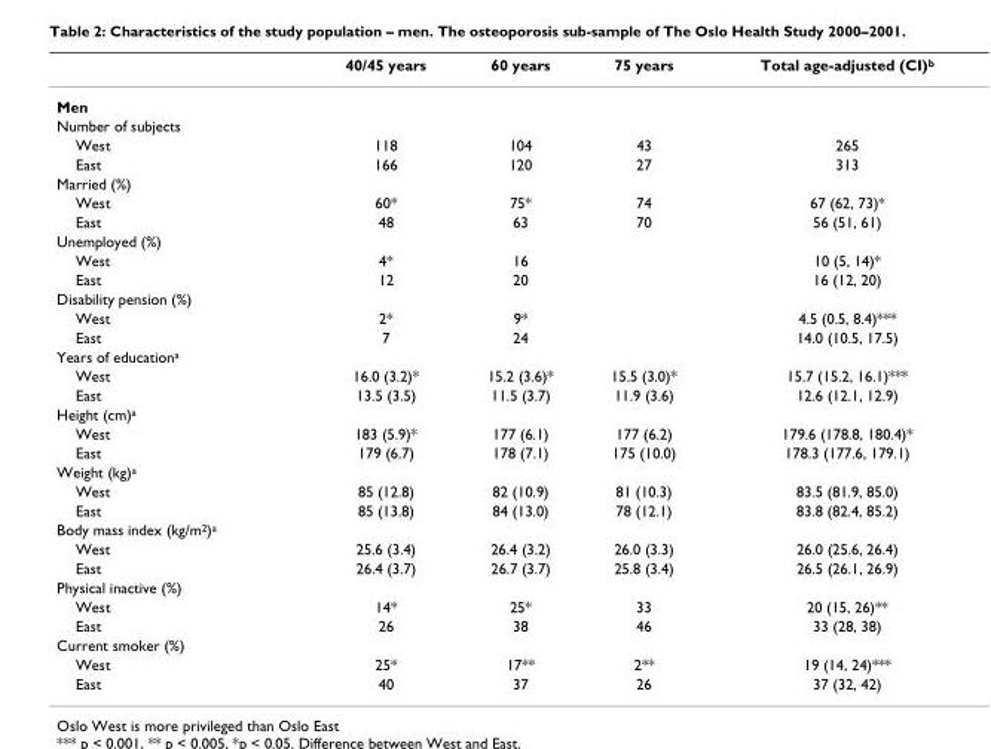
<table><thead><tr><td></td><td>40/45 years</td><td>60 years</td><td>75 years</td><td>Total age-adjusted (CI)<sup>b</sup></td></tr></thead><tbody><tr><td colspan="5">Men</td></tr><tr><td colspan="5">Number of subjects</td></tr><tr><td>West</td><td>118</td><td>104</td><td>43</td><td>265</td></tr><tr><td>East</td><td>166</td><td>120</td><td>27</td><td>313</td></tr><tr><td colspan="5">Married (%)</td></tr><tr><td>West</td><td>60*</td><td>75*</td><td>74</td><td>67 (62, 73)*</td></tr><tr><td>East</td><td>48</td><td>63</td><td>70</td><td>56 (51, 61)</td></tr><tr><td colspan="5">Unemployed (%)</td></tr><tr><td>West</td><td>4*</td><td>16</td><td></td><td>10 (5, 14)*</td></tr><tr><td>East</td><td>12</td><td>20</td><td></td><td>16 (12, 20)</td></tr><tr><td colspan="5">Disability pension (%)</td></tr><tr><td>West</td><td>2*</td><td>9*</td><td></td><td>4.5 (0.5, 8.4)***</td></tr><tr><td>East</td><td>7</td><td>24</td><td></td><td>14.0 (10.5, 17.5)</td></tr><tr><td colspan="5">Years of education<sup>a</sup></td></tr><tr><td>West</td><td>16.0 (3.2)*</td><td>15.2 (3.6)*</td><td>15.5 (3.0)*</td><td>15.7 (15.2, 16.1)***</td></tr><tr><td>East</td><td>13.5 (3.5)</td><td>11.5 (3.7)</td><td>11.9 (3.6)</td><td>12.6 (12.1, 12.9)</td></tr><tr><td colspan="5">Height (cm)<sup>a</sup></td></tr><tr><td>West</td><td>183 (5.9)*</td><td>177 (6.1)</td><td>177 (6.2)</td><td>179.6 (178.8, 180.4)*</td></tr><tr><td>East</td><td>179 (6.7)</td><td>178 (7.1)</td><td>175 (10.0)</td><td>178.3 (177.6, 179.1)</td></tr><tr><td colspan="5">Weight (kg)<sup>a</sup></td></tr><tr><td>West</td><td>85 (12.8)</td><td>82 (10.9)</td><td>81 (10.3)</td><td>83.5 (81.9, 85.0)</td></tr><tr><td>East</td><td>85 (13.8)</td><td>84 (13.0)</td><td>78 (12.1)</td><td>83.8 (82.4, 85.2)</td></tr><tr><td colspan="5">Body mass index (kg/m<sup>2</sup>)<sup>a</sup></td></tr><tr><td>West</td><td>25.6 (3.4)</td><td>26.4 (3.2)</td><td>26.0 (3.3)</td><td>26.0 (25.6, 26.4)</td></tr><tr><td>East</td><td>26.4 (3.7)</td><td>26.7 (3.7)</td><td>25.8 (3.4)</td><td>26.5 (26.1, 26.9)</td></tr><tr><td colspan="5">Physical inactive (%)</td></tr><tr><td>West</td><td>14*</td><td>25*</td><td>33</td><td>20 (15, 26)**</td></tr><tr><td>East</td><td>26</td><td>38</td><td>46</td><td>33 (28, 38)</td></tr><tr><td colspan="5">Current smoker (%)</td></tr><tr><td>West</td><td>25*</td><td>17**</td><td>2**</td><td>19 (14, 24)***</td></tr><tr><td>East</td><td>40</td><td>37</td><td>26</td><td>37 (32, 42)</td></tr></tbody></table>